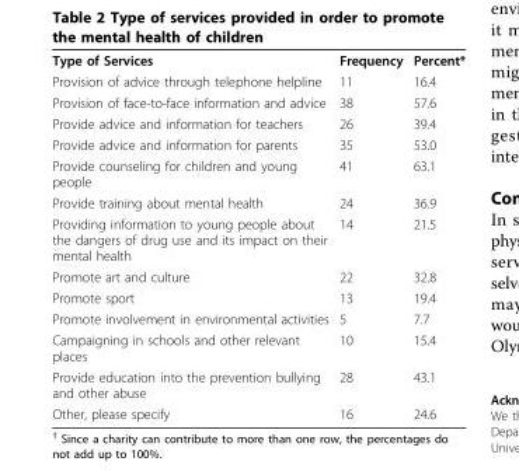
<table><tbody><tr><td>Type of Services</td><td>Frequency</td><td>Percent*</td></tr><tr><td>Provision of advice through telephone helpline</td><td>11</td><td>16.4</td></tr><tr><td>Provision of face-to-face information and advice</td><td>38</td><td>57.6</td></tr><tr><td>Provide advice and information for teachers</td><td>26</td><td>39.4</td></tr><tr><td>Provide advice and information for parents</td><td>35</td><td>53.0</td></tr><tr><td>Provide counseling for children and young people</td><td>41</td><td>63.1</td></tr><tr><td>Provide training about mental health</td><td>24</td><td>36.9</td></tr><tr><td>Providing information to young people about the dangers of drug use and its impact on their mental health</td><td>14</td><td>21.5</td></tr><tr><td>Promote art and culture</td><td>22</td><td>32.8</td></tr><tr><td>Promote sport</td><td>13</td><td>19.4</td></tr><tr><td>Promote involvement in environmental activities</td><td>5</td><td>7.7</td></tr><tr><td>Campaigning in schools and other relevant places</td><td>10</td><td>15.4</td></tr><tr><td>Provide education into the prevention bullying and other abuse</td><td>28</td><td>43.1</td></tr><tr><td>Other, please specify</td><td>16</td><td>24.6</td></tr></tbody></table>